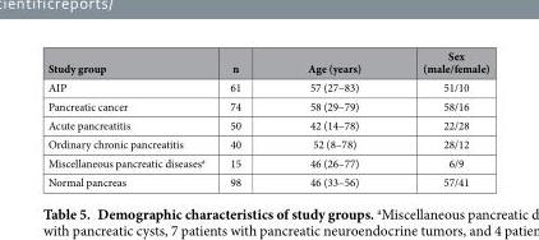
<table><thead><tr><td>Study group</td><td>n</td><td>Age (years)</td><td>Sex (male/female)</td></tr></thead><tbody><tr><td>AIP</td><td>61</td><td>57 (27–83)</td><td>51/10</td></tr><tr><td>Pancreatic cancer</td><td>74</td><td>58 (29–79)</td><td>58/16</td></tr><tr><td>Acute pancreatitis</td><td>50</td><td>42 (14–78)</td><td>22/28</td></tr><tr><td>Ordinary chronic pancreatitis</td><td>40</td><td>52 (8–78)</td><td>28/12</td></tr><tr><td>Miscellaneous pancreatic diseases<sup>a</sup></td><td>15</td><td>46 (26–77)</td><td>6/9</td></tr><tr><td>Normal pancreas</td><td>98</td><td>46 (33–56)</td><td>57/41</td></tr></tbody></table>